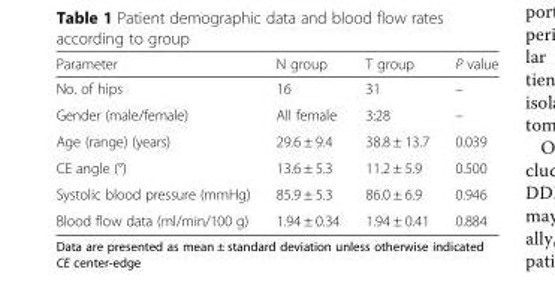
<table><thead><tr><td>Parameter</td><td>N group</td><td>T group</td><td>P value</td></tr></thead><tbody><tr><td>No. of hips</td><td>16</td><td>31</td><td>–</td></tr><tr><td>Gender (male/female)</td><td>All female</td><td>3:28</td><td>–</td></tr><tr><td>Age (range) (years)</td><td>29.6 ± 9.4</td><td>38.8 ± 13.7</td><td>0.039</td></tr><tr><td>CE angle (°)</td><td>13.6 ± 5.3</td><td>11.2 ± 5.9</td><td>0.500</td></tr><tr><td>Systolic blood pressure (mmHg)</td><td>85.9 ± 5.3</td><td>86.0 ± 6.9</td><td>0.946</td></tr><tr><td>Blood flow data (ml/min/100 g)</td><td>1.94 ± 0.34</td><td>1.94 ± 0.41</td><td>0.884</td></tr></tbody></table>